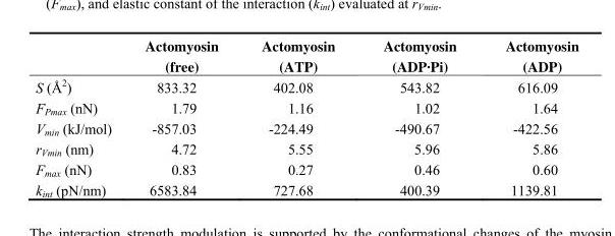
<table><thead><tr><td></td><td>Actomyosin (free)</td><td>Actomyosin (ATP)</td><td>Actomyosin (ADP·Pi)</td><td>Actomyosin (ADP)</td></tr></thead><tbody><tr><td>S (Å2)</td><td>833.32</td><td>402.08</td><td>543.82</td><td>616.09</td></tr><tr><td>FPmax (nN)</td><td>1.79</td><td>1.16</td><td>1.02</td><td>1.64</td></tr><tr><td>Vmin (kJ/mol)</td><td>-857.03</td><td>-224.49</td><td>-490.67</td><td>-422.56</td></tr><tr><td>rVmin (nm)</td><td>4.72</td><td>5.55</td><td>5.96</td><td>5.86</td></tr><tr><td>Fmax (nN)</td><td>0.83</td><td>0.27</td><td>0.46</td><td>0.60</td></tr><tr><td>kint (pN/nm)</td><td>6583.84</td><td>727.68</td><td>400.39</td><td>1139.81</td></tr></tbody></table>